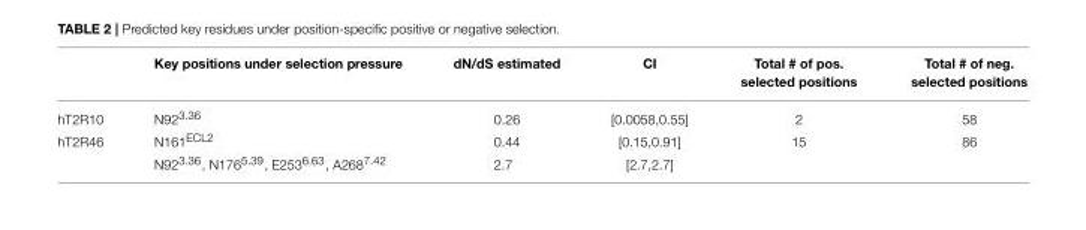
<table><thead><tr><td></td><td>Key positions under selection pressure</td><td>dN/dS estimated</td><td>CI</td><td>Total # of pos. selected positions</td><td>Total # of neg. selected positions</td></tr></thead><tbody><tr><td>hT2R10</td><td>N92<sup>3.36</sup></td><td>0.26</td><td>[0.0058,0.55]</td><td>2</td><td>58</td></tr><tr><td rowspan="2">hT2R46</td><td>N161<sup>ECL2</sup></td><td>0.44</td><td>[0.15,0.91]</td><td>15</td><td>86</td></tr><tr><td>N92<sup>3.36</sup>, N176<sup>5.39</sup>, E253<sup>6.63</sup>, A268<sup>7.42</sup></td><td>2.7</td><td>[2.7,2.7]</td><td></td><td></td></tr></tbody></table>